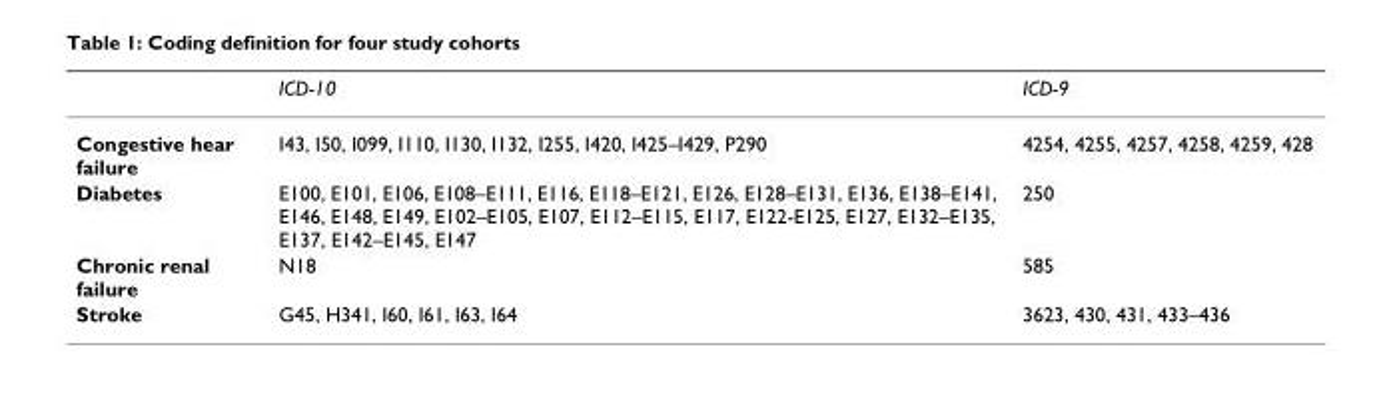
<table><thead><tr><td></td><td>ICD-10</td><td>ICD-9</td></tr></thead><tbody><tr><td>Congestive hear failure</td><td>I43, I50, I099, I110, I130, I132, I255, I420, I425–I429, P290</td><td>4254, 4255, 4257, 4258, 4259, 428</td></tr><tr><td>Diabetes</td><td>E100, E101, E106, E108–E111, E116, E118–E121, E126, E128–E131, E136, E138–E141, E146, E148, E149, E102–E105, E107, E112–E115, E117, E122-E125, E127, E132–E135, E137, E142–E145, E147</td><td>250</td></tr><tr><td>Chronic renal failure</td><td>N18</td><td>585</td></tr><tr><td>Stroke</td><td>G45, H341, I60, I61, I63, I64</td><td>3623, 430, 431, 433–436</td></tr></tbody></table>